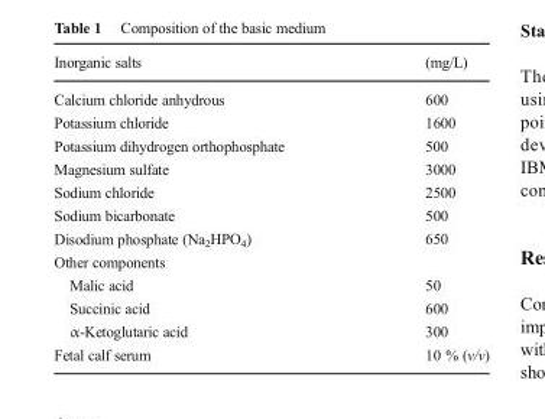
<table><thead><tr><td>Inorganic salts</td><td>(mg/L)</td></tr></thead><tbody><tr><td>Calcium chloride anhydrous</td><td>600</td></tr><tr><td>Potassium chloride</td><td>1600</td></tr><tr><td>Potassium dihydrogen orthophosphate</td><td>500</td></tr><tr><td>Magnesium sulfate</td><td>3000</td></tr><tr><td>Sodium chloride</td><td>2500</td></tr><tr><td>Sodium bicarbonate</td><td>500</td></tr><tr><td>Disodium phosphate (Na<sub>2</sub>HPO<sub>4</sub>)</td><td>650</td></tr><tr><td colspan="2">Other components</td></tr><tr><td>Malic acid</td><td>50</td></tr><tr><td>Succinic acid</td><td>600</td></tr><tr><td>α-Ketoglutaric acid</td><td>300</td></tr><tr><td>Fetal calf serum</td><td>10 % (v/v)</td></tr></tbody></table>